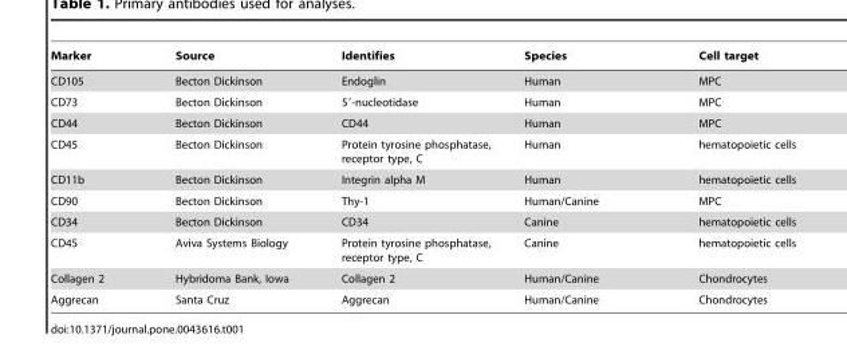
<table><thead><tr><td>Marker</td><td>Source</td><td>Identifies</td><td>Species</td><td>Cell target</td></tr></thead><tbody><tr><td>CD105</td><td>Becton Dickinson</td><td>Endoglin</td><td>Human</td><td>MPC</td></tr><tr><td>CD73</td><td>Becton Dickinson</td><td>5′-nucleotidase</td><td>Human</td><td>MPC</td></tr><tr><td>CD44</td><td>Becton Dickinson</td><td>CD44</td><td>Human</td><td>MPC</td></tr><tr><td>CD45</td><td>Becton Dickinson</td><td>Protein tyrosine phosphatase, receptor type, C</td><td>Human</td><td>hematopoietic cells</td></tr><tr><td>CD11b</td><td>Becton Dickinson</td><td>Integrin alpha M</td><td>Human</td><td>hematopoietic cells</td></tr><tr><td>CD90</td><td>Becton Dickinson</td><td>Thy-1</td><td>Human/Canine</td><td>MPC</td></tr><tr><td>CD34</td><td>Becton Dickinson</td><td>CD34</td><td>Canine</td><td>hematopoietic cells</td></tr><tr><td>CD45</td><td>Aviva Systems Biology</td><td>Protein tyrosine phosphatase, receptor type, C</td><td>Canine</td><td>hematopoietic cells</td></tr><tr><td>Collagen 2</td><td>Hybridoma Bank, Iowa</td><td>Collagen 2</td><td>Human/Canine</td><td>Chondrocytes</td></tr><tr><td>Aggrecan</td><td>Santa Cruz</td><td>Aggrecan</td><td>Human/Canine</td><td>Chondrocytes</td></tr></tbody></table>